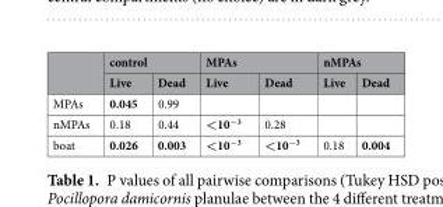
<table><thead><tr><td rowspan="2"></td><td colspan="2">control</td><td colspan="2">MPAs</td><td colspan="2">nMPAs</td></tr><tr><td>Live</td><td>Dead</td><td>Live</td><td>Dead</td><td>Live</td><td>Dead</td></tr></thead><tbody><tr><td>MPAs</td><td>0.045</td><td>0.99</td><td></td><td></td><td></td><td></td></tr><tr><td>nMPAs</td><td>0.18</td><td>0.44</td><td>&lt;10<sup>−3</sup></td><td>0.28</td><td></td><td></td></tr><tr><td>boat</td><td>0.026</td><td>0.003</td><td>&lt;10<sup>−3</sup></td><td>&lt;10<sup>−3</sup></td><td>0.18</td><td>0.004</td></tr></tbody></table>